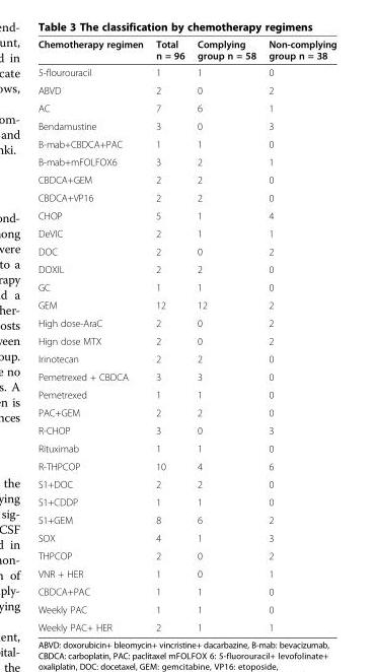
<table><thead><tr><td>Chemotherapy regimen</td><td>Total n = 96</td><td>Complying group n = 58</td><td>Non-complying group n = 38</td></tr></thead><tbody><tr><td>5-flourouracil</td><td>1</td><td>1</td><td>0</td></tr><tr><td>ABVD</td><td>2</td><td>0</td><td>2</td></tr><tr><td>AC</td><td>7</td><td>6</td><td>1</td></tr><tr><td>Bendamustine</td><td>3</td><td>0</td><td>3</td></tr><tr><td>B-mab+CBDCA+PAC</td><td>1</td><td>1</td><td>0</td></tr><tr><td>B-mab+mFOLFOX6</td><td>3</td><td>2</td><td>1</td></tr><tr><td>CBDCA+GEM</td><td>2</td><td>2</td><td>0</td></tr><tr><td>CBDCA+VP16</td><td>2</td><td>2</td><td>0</td></tr><tr><td>CHOP</td><td>5</td><td>1</td><td>4</td></tr><tr><td>DeVIC</td><td>2</td><td>1</td><td>1</td></tr><tr><td>DOC</td><td>2</td><td>0</td><td>2</td></tr><tr><td>DOXIL</td><td>2</td><td>2</td><td>0</td></tr><tr><td>GC</td><td>1</td><td>1</td><td>0</td></tr><tr><td>GEM</td><td>12</td><td>12</td><td>2</td></tr><tr><td>High dose-AraC</td><td>2</td><td>0</td><td>2</td></tr><tr><td>Hign dose MTX</td><td>2</td><td>0</td><td>2</td></tr><tr><td>Irinotecan</td><td>2</td><td>2</td><td>0</td></tr><tr><td>Pemetrexed + CBDCA</td><td>3</td><td>3</td><td>0</td></tr><tr><td>Pemetrexed</td><td>1</td><td>1</td><td>0</td></tr><tr><td>PAC+GEM</td><td>2</td><td>2</td><td>0</td></tr><tr><td>R-CHOP</td><td>3</td><td>0</td><td>3</td></tr><tr><td>Rituximab</td><td>1</td><td>1</td><td>0</td></tr><tr><td>R-THPCOP</td><td>10</td><td>4</td><td>6</td></tr><tr><td>S1+DOC</td><td>2</td><td>2</td><td>0</td></tr><tr><td>S1+CDDP</td><td>1</td><td>1</td><td>0</td></tr><tr><td>S1+GEM</td><td>8</td><td>6</td><td>2</td></tr><tr><td>SOX</td><td>4</td><td>1</td><td>3</td></tr><tr><td>THPCOP</td><td>2</td><td>0</td><td>2</td></tr><tr><td>VNR + HER</td><td>1</td><td>0</td><td>1</td></tr><tr><td>CBDCA+PAC</td><td>1</td><td>1</td><td>0</td></tr><tr><td>Weekly PAC</td><td>1</td><td>1</td><td>0</td></tr><tr><td>Weekly PAC+ HER</td><td>2</td><td>1</td><td>1</td></tr></tbody></table>